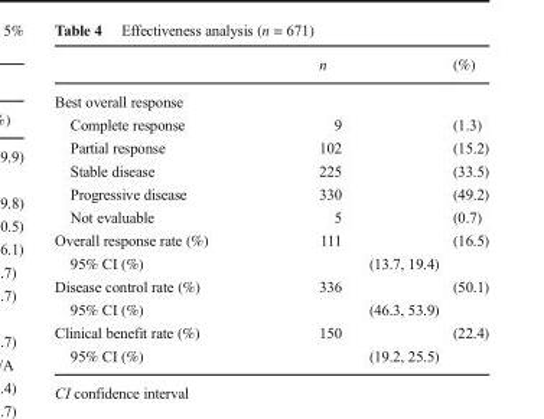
<table><thead><tr><td></td><td>n</td><td>(%)</td></tr></thead><tbody><tr><td colspan="3">Best overall response</td></tr><tr><td>Complete response</td><td>9</td><td>(1.3)</td></tr><tr><td>Partial response</td><td>102</td><td>(15.2)</td></tr><tr><td>Stable disease</td><td>225</td><td>(33.5)</td></tr><tr><td>Progressive disease</td><td>330</td><td>(49.2)</td></tr><tr><td>Not evaluable</td><td>5</td><td>(0.7)</td></tr><tr><td>Overall response rate (%)</td><td>111</td><td>(16.5)</td></tr><tr><td>95% CI (%)</td><td colspan="2">(13.7, 19.4)</td></tr><tr><td>Disease control rate (%)</td><td>336</td><td>(50.1)</td></tr><tr><td>95% CI (%)</td><td colspan="2">(46.3, 53.9)</td></tr><tr><td>Clinical benefit rate (%)</td><td>150</td><td>(22.4)</td></tr><tr><td>95% CI (%)</td><td colspan="2">(19.2, 25.5)</td></tr></tbody></table>